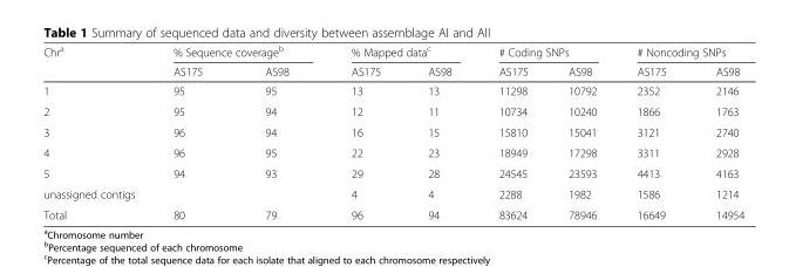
<table><thead><tr><td rowspan="2">Chr<sup>a</sup></td><td colspan="2">% Sequence coverage<sup>b</sup></td><td colspan="2">% Mapped data<sup>c</sup></td><td colspan="2"># Coding SNPs</td><td colspan="2"># Noncoding SNPs</td></tr><tr><td>AS175</td><td>AS98</td><td>AS175</td><td>AS98</td><td>AS175</td><td>AS98</td><td>AS175</td><td>AS98</td></tr></thead><tbody><tr><td>1</td><td>95</td><td>95</td><td>13</td><td>13</td><td>11298</td><td>10792</td><td>2352</td><td>2146</td></tr><tr><td>2</td><td>95</td><td>94</td><td>12</td><td>11</td><td>10734</td><td>10240</td><td>1866</td><td>1763</td></tr><tr><td>3</td><td>96</td><td>94</td><td>16</td><td>15</td><td>15810</td><td>15041</td><td>3121</td><td>2740</td></tr><tr><td>4</td><td>96</td><td>95</td><td>22</td><td>23</td><td>18949</td><td>17298</td><td>3311</td><td>2928</td></tr><tr><td>5</td><td>94</td><td>93</td><td>29</td><td>28</td><td>24545</td><td>23593</td><td>4413</td><td>4163</td></tr><tr><td>unassigned contigs</td><td></td><td></td><td>4</td><td>4</td><td>2288</td><td>1982</td><td>1586</td><td>1214</td></tr><tr><td>Total</td><td>80</td><td>79</td><td>96</td><td>94</td><td>83624</td><td>78946</td><td>16649</td><td>14954</td></tr></tbody></table>